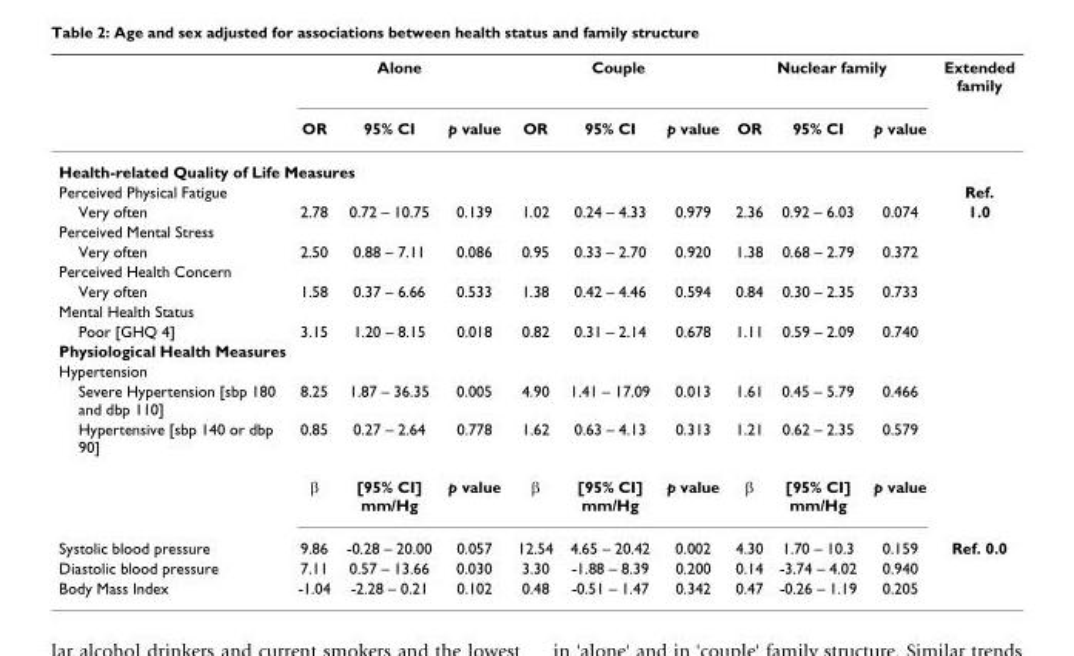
<table><thead><tr><td rowspan="2"></td><td colspan="3">Alone</td><td colspan="3">Couple</td><td colspan="3">Nuclear family</td><td rowspan="2">Extended family</td></tr><tr><td>OR</td><td>95% CI</td><td>p value</td><td>OR</td><td>95% CI</td><td>p value</td><td>OR</td><td>95% CI</td><td>p value</td></tr></thead><tbody><tr><td colspan="11">Health-related Quality of Life Measures</td></tr><tr><td>Perceived Physical Fatigue</td><td></td><td></td><td></td><td></td><td></td><td></td><td></td><td></td><td></td><td>Ref.</td></tr><tr><td>Very often</td><td>2.78</td><td>0.72 – 10.75</td><td>0.139</td><td>1.02</td><td>0.24 – 4.33</td><td>0.979</td><td>2.36</td><td>0.92 – 6.03</td><td>0.074</td><td>1.0</td></tr><tr><td colspan="11">Perceived Mental Stress</td></tr><tr><td>Very often</td><td>2.50</td><td>0.88 – 7.11</td><td>0.086</td><td>0.95</td><td>0.33 – 2.70</td><td>0.920</td><td>1.38</td><td>0.68 – 2.79</td><td>0.372</td><td></td></tr><tr><td colspan="11">Perceived Health Concern</td></tr><tr><td>Very often</td><td>1.58</td><td>0.37 – 6.66</td><td>0.533</td><td>1.38</td><td>0.42 – 4.46</td><td>0.594</td><td>0.84</td><td>0.30 – 2.35</td><td>0.733</td><td></td></tr><tr><td colspan="11">Mental Health Status</td></tr><tr><td>Poor [GHQ 4]</td><td>3.15</td><td>1.20 – 8.15</td><td>0.018</td><td>0.82</td><td>0.31 – 2.14</td><td>0.678</td><td>1.11</td><td>0.59 – 2.09</td><td>0.740</td><td></td></tr><tr><td colspan="11">Physiological Health Measures</td></tr><tr><td colspan="11">Hypertension</td></tr><tr><td>Severe Hypertension [sbp 180 and dbp 110]</td><td>8.25</td><td>1.87 – 36.35</td><td>0.005</td><td>4.90</td><td>1.41 – 17.09</td><td>0.013</td><td>1.61</td><td>0.45 – 5.79</td><td>0.466</td><td></td></tr><tr><td rowspan="2">Hypertensive [sbp 140 or dbp 90]</td><td>0.85</td><td>0.27 – 2.64</td><td>0.778</td><td>1.62</td><td>0.63 – 4.13</td><td>0.313</td><td>1.21</td><td>0.62 – 2.35</td><td>0.579</td><td></td></tr><tr><td>β</td><td>[95% CI] mm/Hg</td><td>p value</td><td>β</td><td>[95% CI] mm/Hg</td><td>p value</td><td>β</td><td>[95% CI] mm/Hg</td><td>p value</td><td></td></tr><tr><td>Systolic blood pressure</td><td>9.86</td><td>-0.28 – 20.00</td><td>0.057</td><td>12.54</td><td>4.65 – 20.42</td><td>0.002</td><td>4.30</td><td>1.70 – 10.3</td><td>0.159</td><td>Ref. 0.0</td></tr><tr><td>Diastolic blood pressure</td><td>7.11</td><td>0.57 – 13.66</td><td>0.030</td><td>3.30</td><td>-1.88 – 8.39</td><td>0.200</td><td>0.14</td><td>-3.74 – 4.02</td><td>0.940</td><td></td></tr><tr><td>Body Mass Index</td><td>-1.04</td><td>-2.28 – 0.21</td><td>0.102</td><td>0.48</td><td>-0.51 – 1.47</td><td>0.342</td><td>0.47</td><td>-0.26 – 1.19</td><td>0.205</td><td></td></tr></tbody></table>